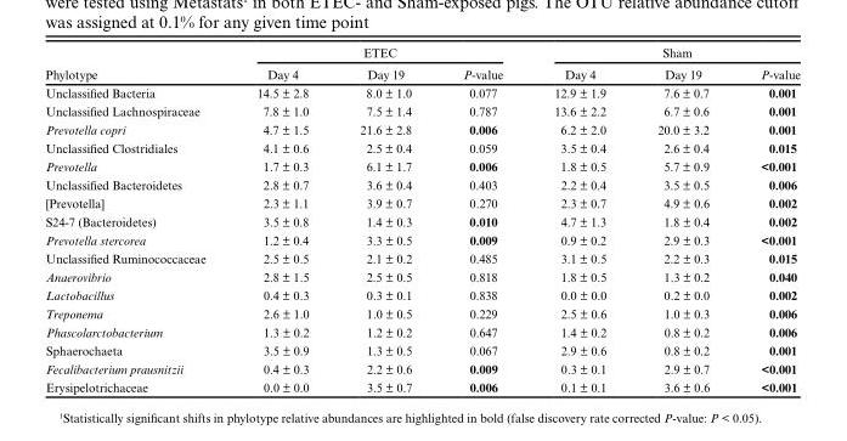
<table><thead><tr><td rowspan="2">Phylotype</td><td colspan="3">ETEC</td><td colspan="3">Sham</td></tr><tr><td>Day 4</td><td>Day 19</td><td>P-value</td><td>Day 4</td><td>Day 19</td><td>P-value</td></tr></thead><tbody><tr><td>Unclassified Bacteria</td><td>14.5 ± 2.8</td><td>8.0 ± 1.0</td><td>0.077</td><td>12.9 ± 1.9</td><td>7.6 ± 0.7</td><td>0.001</td></tr><tr><td>Unclassified Lachnospiraceae</td><td>7.8 ± 1.0</td><td>7.5 ± 1.4</td><td>0.787</td><td>13.6 ± 2.2</td><td>6.7 ± 0.6</td><td>0.001</td></tr><tr><td>Prevotella copri</td><td>4.7 ± 1.5</td><td>21.6 ± 2.8</td><td>0.006</td><td>6.2 ± 2.0</td><td>20.0 ± 3.2</td><td>0.001</td></tr><tr><td>Unclassified Clostridiales</td><td>4.1 ± 0.6</td><td>2.5 ± 0.4</td><td>0.059</td><td>3.5 ± 0.4</td><td>2.6 ± 0.4</td><td>0.015</td></tr><tr><td>Prevotella</td><td>1.7 ± 0.3</td><td>6.1 ± 1.7</td><td>0.006</td><td>1.8 ± 0.5</td><td>5.7 ± 0.9</td><td>&lt;0.001</td></tr><tr><td>Unclassified Bacteroidetes</td><td>2.8 ± 0.7</td><td>3.6 ± 0.4</td><td>0.403</td><td>2.2 ± 0.4</td><td>3.5 ± 0.5</td><td>0.006</td></tr><tr><td>[Prevotella]</td><td>2.3 ± 1.1</td><td>3.9 ± 0.7</td><td>0.270</td><td>2.3 ± 0.7</td><td>4.9 ± 0.6</td><td>0.002</td></tr><tr><td>S24-7 (Bacteroidetes)</td><td>3.5 ± 0.8</td><td>1.4 ± 0.3</td><td>0.010</td><td>4.7 ± 1.3</td><td>1.8 ± 0.4</td><td>0.002</td></tr><tr><td>Prevotella stercorea</td><td>1.2 ± 0.4</td><td>3.3 ± 0.5</td><td>0.009</td><td>0.9 ± 0.2</td><td>2.9 ± 0.3</td><td>&lt;0.001</td></tr><tr><td>Unclassified Ruminococcaceae</td><td>2.5 ± 0.5</td><td>2.1 ± 0.2</td><td>0.485</td><td>3.1 ± 0.5</td><td>2.2 ± 0.3</td><td>0.015</td></tr><tr><td>Anaerovibrio</td><td>2.8 ± 1.5</td><td>2.5 ± 0.5</td><td>0.818</td><td>1.8 ± 0.5</td><td>1.3 ± 0.2</td><td>0.040</td></tr><tr><td>Lactobacillus</td><td>0.4 ± 0.3</td><td>0.3 ± 0.1</td><td>0.838</td><td>0.0 ± 0.0</td><td>0.2 ± 0.0</td><td>0.002</td></tr><tr><td>Treponema</td><td>2.6 ± 1.0</td><td>1.0 ± 0.5</td><td>0.229</td><td>2.5 ± 0.6</td><td>1.0 ± 0.3</td><td>0.006</td></tr><tr><td>Phascolarctobacterium</td><td>1.3 ± 0.2</td><td>1.2 ± 0.2</td><td>0.647</td><td>1.4 ± 0.2</td><td>0.8 ± 0.2</td><td>0.006</td></tr><tr><td>Sphaerochaeta</td><td>3.5 ± 0.9</td><td>1.3 ± 0.5</td><td>0.067</td><td>2.9 ± 0.6</td><td>0.8 ± 0.2</td><td>0.001</td></tr><tr><td>Fecalibacterium prausnitzii</td><td>0.4 ± 0.3</td><td>2.2 ± 0.6</td><td>0.009</td><td>0.3 ± 0.1</td><td>2.9 ± 0.7</td><td>&lt;0.001</td></tr><tr><td>Erysipelotrichaceae</td><td>0.0 ± 0.0</td><td>3.5 ± 0.7</td><td>0.006</td><td>0.1 ± 0.1</td><td>3.6 ± 0.6</td><td>&lt;0.001</td></tr></tbody></table>